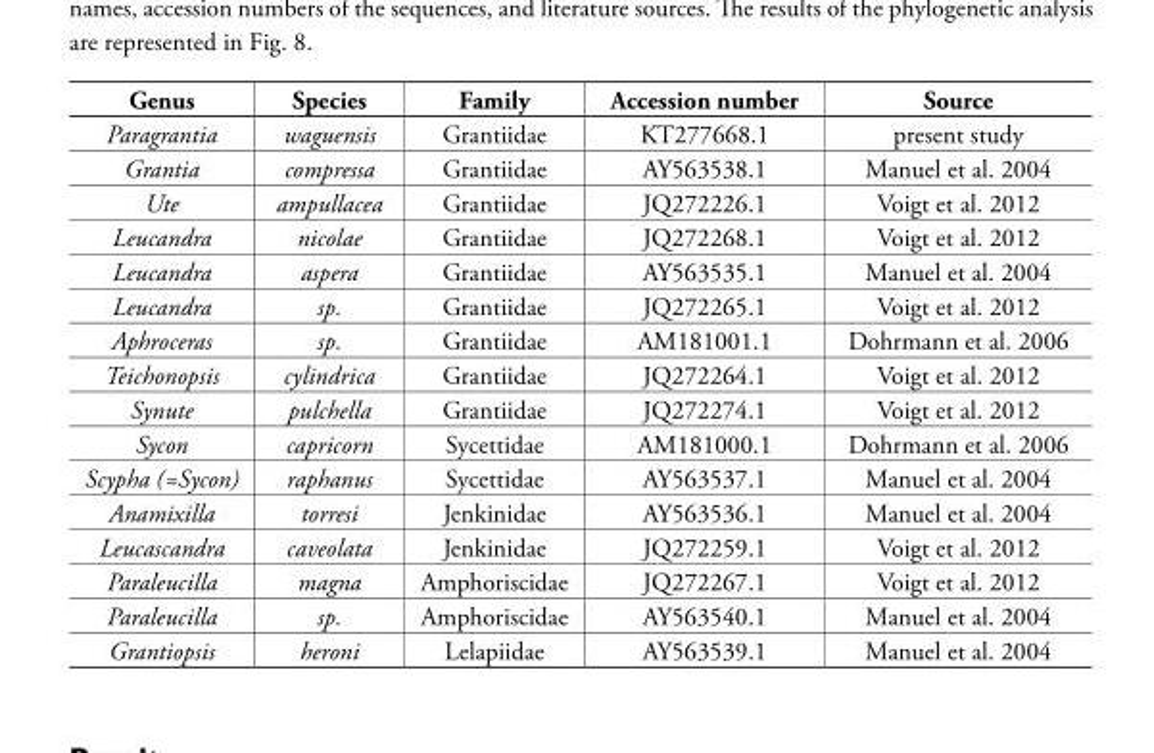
<table><thead><tr><td>Genus</td><td>Species</td><td>Family</td><td>Accession number</td><td>Source</td></tr></thead><tbody><tr><td>Paragrantia</td><td>waguensis</td><td>Grantiidae</td><td>KT277668.1</td><td>present study</td></tr><tr><td>Grantia</td><td>compressa</td><td>Grantiidae</td><td>AY563538.1</td><td>Manuel et al. 2004</td></tr><tr><td>Ute</td><td>ampullacea</td><td>Grantiidae</td><td>JQ272226.1</td><td>Voigt et al. 2012</td></tr><tr><td>Leucandra</td><td>nicolae</td><td>Grantiidae</td><td>JQ272268.1</td><td>Voigt et al. 2012</td></tr><tr><td>Leucandra</td><td>aspera</td><td>Grantiidae</td><td>AY563535.1</td><td>Manuel et al. 2004</td></tr><tr><td>Leucandra</td><td>sp.</td><td>Grantiidae</td><td>JQ272265.1</td><td>Voigt et al. 2012</td></tr><tr><td>Aphroceras</td><td>sp.</td><td>Grantiidae</td><td>AM181001.1</td><td>Dohrmann et al. 2006</td></tr><tr><td>Teichonopsis</td><td>cylindrica</td><td>Grantiidae</td><td>JQ272264.1</td><td>Voigt et al. 2012</td></tr><tr><td>Synute</td><td>pulchella</td><td>Grantiidae</td><td>JQ272274.1</td><td>Voigt et al. 2012</td></tr><tr><td>Sycon</td><td>capricorn</td><td>Sycettidae</td><td>AM181000.1</td><td>Dohrmann et al. 2006</td></tr><tr><td>Scypha (=Sycon)</td><td>raphanus</td><td>Sycettidae</td><td>AY563537.1</td><td>Manuel et al. 2004</td></tr><tr><td>Anamixilla</td><td>torresi</td><td>Jenkinidae</td><td>AY563536.1</td><td>Manuel et al. 2004</td></tr><tr><td>Leucascandra</td><td>caveolata</td><td>Jenkinidae</td><td>JQ272259.1</td><td>Voigt et al. 2012</td></tr><tr><td>Paraleucilla</td><td>magna</td><td>Amphoriscidae</td><td>JQ272267.1</td><td>Voigt et al. 2012</td></tr><tr><td>Paraleucilla</td><td>sp.</td><td>Amphoriscidae</td><td>AY563540.1</td><td>Manuel et al. 2004</td></tr><tr><td>Grantiopsis</td><td>heroni</td><td>Lelapiidae</td><td>AY563539.1</td><td>Manuel et al. 2004</td></tr></tbody></table>